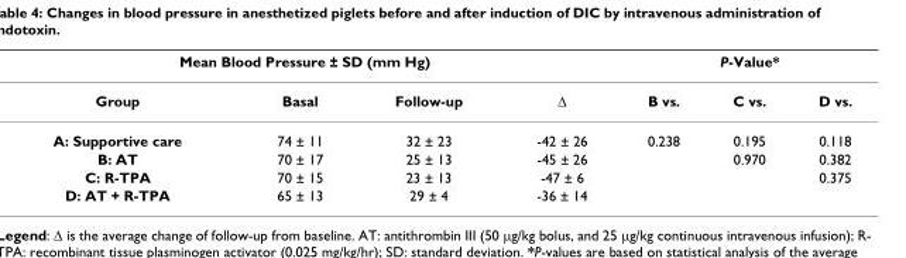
<table><thead><tr><td colspan="4">Mean Blood Pressure ± SD (mm Hg)</td><td colspan="3">P-Value*</td></tr><tr><td>Group</td><td>Basal</td><td>Follow-up</td><td>Δ</td><td>B vs.</td><td>C vs.</td><td>D vs.</td></tr></thead><tbody><tr><td>A: Supportive care</td><td>74 ± 11</td><td>32 ± 23</td><td>-42 ± 26</td><td>0.238</td><td>0.195</td><td>0.118</td></tr><tr><td>B: AT</td><td>70 ± 17</td><td>25 ± 13</td><td>-45 ± 26</td><td></td><td>0.970</td><td>0.382</td></tr><tr><td>C: R-TPA</td><td>70 ± 15</td><td>23 ± 13</td><td>-47 ± 6</td><td></td><td></td><td>0.375</td></tr><tr><td>D: AT + R-TPA</td><td>65 ± 13</td><td>29 ± 4</td><td>-36 ± 14</td><td></td><td></td><td></td></tr></tbody></table>